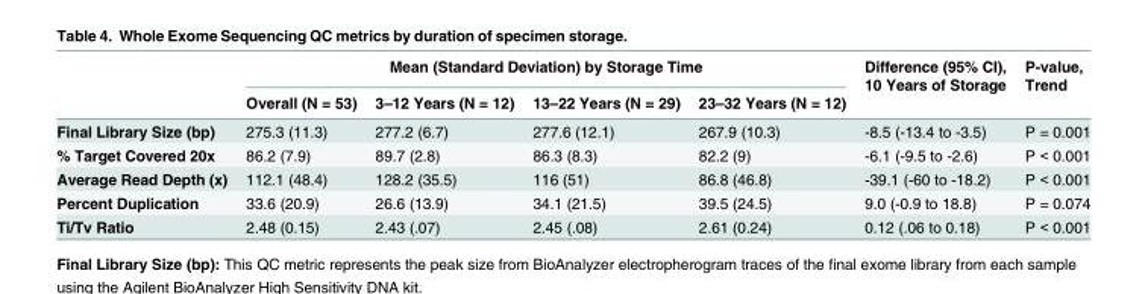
<table><thead><tr><td rowspan="2"></td><td colspan="4">Mean (Standard Deviation) by Storage Time</td><td rowspan="2">Difference (95% CI), 10 Years of Storage</td><td rowspan="2">P-value, Trend</td></tr><tr><td>Overall (N = 53)</td><td>3–12 Years (N = 12)</td><td>13–22 Years (N = 29)</td><td>23–32 Years (N = 12)</td></tr></thead><tbody><tr><td>Final Library Size (bp)</td><td>275.3 (11.3)</td><td>277.2 (6.7)</td><td>277.6 (12.1)</td><td>267.9 (10.3)</td><td>-8.5 (-13.4 to -3.5)</td><td>P = 0.001</td></tr><tr><td>% Target Covered 20x</td><td>86.2 (7.9)</td><td>89.7 (2.8)</td><td>86.3 (8.3)</td><td>82.2 (9)</td><td>-6.1 (-9.5 to -2.6)</td><td>P &lt; 0.001</td></tr><tr><td>Average Read Depth (x)</td><td>112.1 (48.4)</td><td>128.2 (35.5)</td><td>116 (51)</td><td>86.8 (46.8)</td><td>-39.1 (-60 to -18.2)</td><td>P &lt; 0.001</td></tr><tr><td>Percent Duplication</td><td>33.6 (20.9)</td><td>26.6 (13.9)</td><td>34.1 (21.5)</td><td>39.5 (24.5)</td><td>9.0 (-0.9 to 18.8)</td><td>P = 0.074</td></tr><tr><td>Ti/Tv Ratio</td><td>2.48 (0.15)</td><td>2.43 (.07)</td><td>2.45 (.08)</td><td>2.61 (0.24)</td><td>0.12 (.06 to 0.18)</td><td>P &lt; 0.001</td></tr></tbody></table>